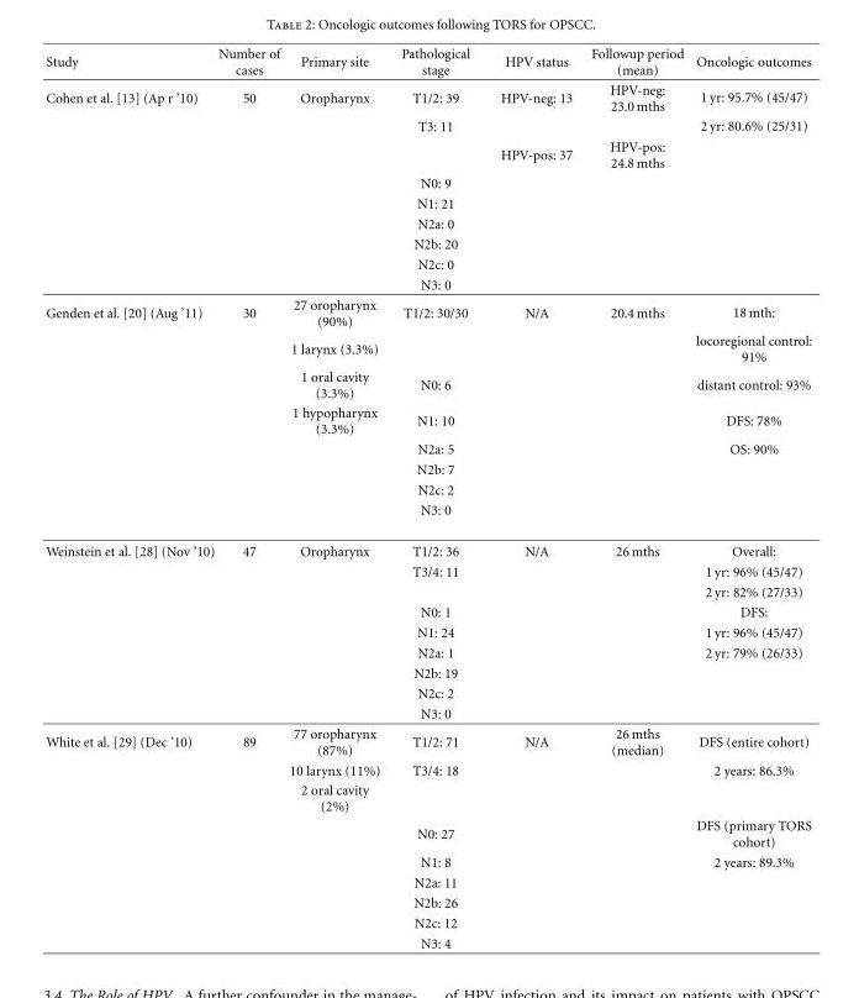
<table><thead><tr><td>Study</td><td>Number of cases</td><td>Primary site</td><td>Pathological stage</td><td>HPV status</td><td>Followup period (mean)</td><td>Oncologic outcomes</td></tr></thead><tbody><tr><td rowspan="9">Cohen et al. [13] (Ap r ’10)</td><td>50</td><td>Oropharynx</td><td>T1/2: 39</td><td>HPV-neg: 13</td><td>HPV-neg: 23.0 mths</td><td>1 yr: 95.7% (45/47)</td></tr><tr><td></td><td></td><td>T3: 11</td><td></td><td></td><td>2 yr: 80.6% (25/31)</td></tr><tr><td></td><td></td><td></td><td>HPV-pos: 37</td><td>HPV-pos: 24.8 mths</td><td></td></tr><tr><td></td><td></td><td>N0: 9</td><td></td><td></td><td></td></tr><tr><td></td><td></td><td>N1: 21</td><td></td><td></td><td></td></tr><tr><td></td><td></td><td>N2a: 0</td><td></td><td></td><td></td></tr><tr><td></td><td></td><td>N2b: 20</td><td></td><td></td><td></td></tr><tr><td></td><td></td><td>N2c: 0</td><td></td><td></td><td></td></tr><tr><td></td><td></td><td>N3: 0</td><td></td><td></td><td></td></tr><tr><td rowspan="8">Genden et al. [20] (Aug ’11)</td><td>30</td><td>27 oropharynx (90%)</td><td>T1/2: 30/30</td><td>N/A</td><td>20.4 mths</td><td>18 mth:</td></tr><tr><td></td><td>1 larynx (3.3%)</td><td></td><td></td><td></td><td>locoregional control: 91%</td></tr><tr><td></td><td>1 oral cavity (3.3%)</td><td>N0: 6</td><td></td><td></td><td>distant control: 93%</td></tr><tr><td></td><td>1 hypopharynx (3.3%)</td><td>N1: 10</td><td></td><td></td><td>DFS: 78%</td></tr><tr><td></td><td></td><td>N2a: 5</td><td></td><td></td><td>OS: 90%</td></tr><tr><td></td><td></td><td>N2b: 7</td><td></td><td></td><td></td></tr><tr><td></td><td></td><td>N2c: 2</td><td></td><td></td><td></td></tr><tr><td></td><td></td><td>N3: 0</td><td></td><td></td><td></td></tr><tr><td rowspan="9">Weinstein et al. [28] (Nov ’10)</td><td>47</td><td>Oropharynx</td><td>T1/2: 36</td><td>N/A</td><td>26 mths</td><td>Overall:</td></tr><tr><td></td><td></td><td>T3/4: 11</td><td></td><td></td><td>1 yr: 96% (45/47)</td></tr><tr><td></td><td></td><td></td><td></td><td></td><td>2 yr: 82% (27/33)</td></tr><tr><td></td><td></td><td>N0: 1</td><td></td><td></td><td>DFS:</td></tr><tr><td></td><td></td><td>N1: 24</td><td></td><td></td><td>1 yr: 96% (45/47)</td></tr><tr><td></td><td></td><td>N2a: 1</td><td></td><td></td><td>2 yr: 79% (26/33)</td></tr><tr><td></td><td></td><td>N2b: 19</td><td></td><td></td><td></td></tr><tr><td></td><td></td><td>N2c: 2</td><td></td><td></td><td></td></tr><tr><td></td><td></td><td>N3: 0</td><td></td><td></td><td></td></tr><tr><td rowspan="9">White et al. [29] (Dec ’10)</td><td>89</td><td>77 oropharynx (87%)</td><td>T1/2: 71</td><td>N/A</td><td>26 mths (median)</td><td>DFS (entire cohort)</td></tr><tr><td></td><td>10 larynx (11%)</td><td>T3/4: 18</td><td></td><td></td><td>2 years: 86.3%</td></tr><tr><td></td><td>2 oral cavity (2%)</td><td></td><td></td><td></td><td></td></tr><tr><td></td><td></td><td>N0: 27</td><td></td><td></td><td>DFS (primary TORS cohort)</td></tr><tr><td></td><td></td><td>N1: 8</td><td></td><td></td><td>2 years: 89.3%</td></tr><tr><td></td><td></td><td>N2a: 11</td><td></td><td></td><td></td></tr><tr><td></td><td></td><td>N2b: 26</td><td></td><td></td><td></td></tr><tr><td></td><td></td><td>N2c: 12</td><td></td><td></td><td></td></tr><tr><td></td><td></td><td>N3: 4</td><td></td><td></td><td></td></tr></tbody></table>